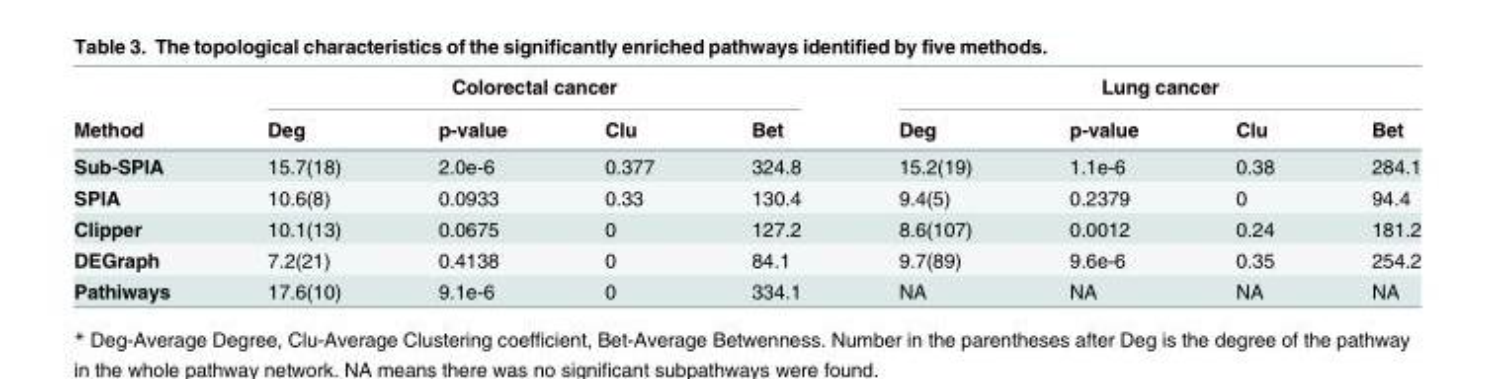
<table><thead><tr><td rowspan="2">Method</td><td colspan="4">Colorectal cancer</td><td colspan="4">Lung cancer</td></tr><tr><td>Deg</td><td>p-value</td><td>Clu</td><td>Bet</td><td>Deg</td><td>p-value</td><td>Clu</td><td>Bet</td></tr></thead><tbody><tr><td>Sub-SPIA</td><td>15.7(18)</td><td>2.0e-6</td><td>0.377</td><td>324.8</td><td>15.2(19)</td><td>1.1e-6</td><td>0.38</td><td>284.1</td></tr><tr><td>SPIA</td><td>10.6(8)</td><td>0.0933</td><td>0.33</td><td>130.4</td><td>9.4(5)</td><td>0.2379</td><td>0</td><td>94.4</td></tr><tr><td>Clipper</td><td>10.1(13)</td><td>0.0675</td><td>0</td><td>127.2</td><td>8.6(107)</td><td>0.0012</td><td>0.24</td><td>181.2</td></tr><tr><td>DEGraph</td><td>7.2(21)</td><td>0.4138</td><td>0</td><td>84.1</td><td>9.7(89)</td><td>9.6e-6</td><td>0.35</td><td>254.2</td></tr><tr><td>Pathiways</td><td>17.6(10)</td><td>9.1e-6</td><td>0</td><td>334.1</td><td>NA</td><td>NA</td><td>NA</td><td>NA</td></tr></tbody></table>